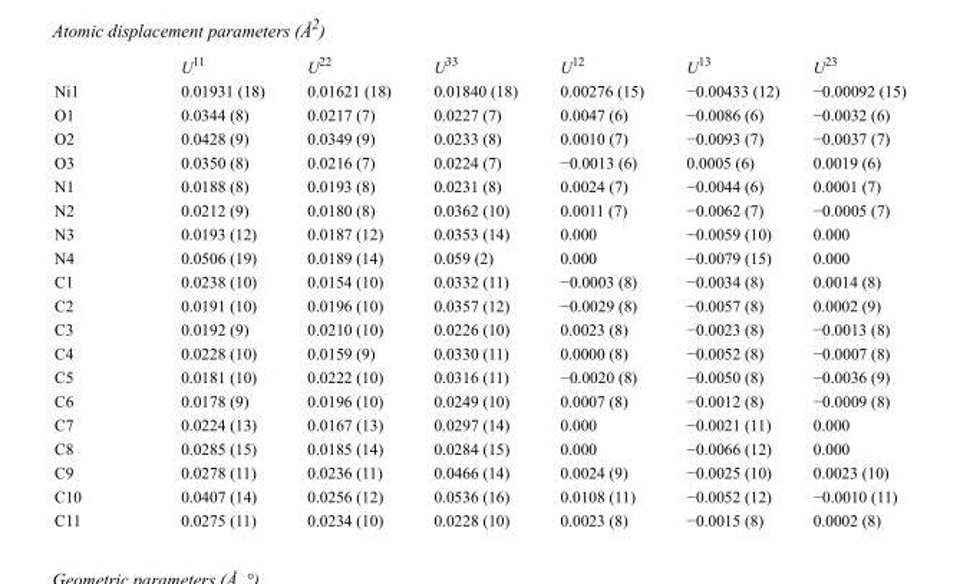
<table><thead><tr><td></td><td>U<sup>11</sup></td><td>U<sup>22</sup></td><td>U<sup>33</sup></td><td>U<sup>12</sup></td><td>U<sup>13</sup></td><td>U<sup>23</sup></td></tr></thead><tbody><tr><td>Ni1</td><td>0.01931 (18)</td><td>0.01621 (18)</td><td>0.01840 (18)</td><td>0.00276 (15)</td><td>−0.00433 (12)</td><td>−0.00092 (15)</td></tr><tr><td>O1</td><td>0.0344 (8)</td><td>0.0217 (7)</td><td>0.0227 (7)</td><td>0.0047 (6)</td><td>−0.0086 (6)</td><td>−0.0032 (6)</td></tr><tr><td>O2</td><td>0.0428 (9)</td><td>0.0349 (9)</td><td>0.0233 (8)</td><td>0.0010 (7)</td><td>−0.0093 (7)</td><td>−0.0037 (7)</td></tr><tr><td>O3</td><td>0.0350 (8)</td><td>0.0216 (7)</td><td>0.0224 (7)</td><td>−0.0013 (6)</td><td>0.0005 (6)</td><td>0.0019 (6)</td></tr><tr><td>N1</td><td>0.0188 (8)</td><td>0.0193 (8)</td><td>0.0231 (8)</td><td>0.0024 (7)</td><td>−0.0044 (6)</td><td>0.0001 (7)</td></tr><tr><td>N2</td><td>0.0212 (9)</td><td>0.0180 (8)</td><td>0.0362 (10)</td><td>0.0011 (7)</td><td>−0.0062 (7)</td><td>−0.0005 (7)</td></tr><tr><td>N3</td><td>0.0193 (12)</td><td>0.0187 (12)</td><td>0.0353 (14)</td><td>0.000</td><td>−0.0059 (10)</td><td>0.000</td></tr><tr><td>N4</td><td>0.0506 (19)</td><td>0.0189 (14)</td><td>0.059 (2)</td><td>0.000</td><td>−0.0079 (15)</td><td>0.000</td></tr><tr><td>C1</td><td>0.0238 (10)</td><td>0.0154 (10)</td><td>0.0332 (11)</td><td>−0.0003 (8)</td><td>−0.0034 (8)</td><td>0.0014 (8)</td></tr><tr><td>C2</td><td>0.0191 (10)</td><td>0.0196 (10)</td><td>0.0357 (12)</td><td>−0.0029 (8)</td><td>−0.0057 (8)</td><td>0.0002 (9)</td></tr><tr><td>C3</td><td>0.0192 (9)</td><td>0.0210 (10)</td><td>0.0226 (10)</td><td>0.0023 (8)</td><td>−0.0023 (8)</td><td>−0.0013 (8)</td></tr><tr><td>C4</td><td>0.0228 (10)</td><td>0.0159 (9)</td><td>0.0330 (11)</td><td>0.0000 (8)</td><td>−0.0052 (8)</td><td>−0.0007 (8)</td></tr><tr><td>C5</td><td>0.0181 (10)</td><td>0.0222 (10)</td><td>0.0316 (11)</td><td>−0.0020 (8)</td><td>−0.0050 (8)</td><td>−0.0036 (9)</td></tr><tr><td>C6</td><td>0.0178 (9)</td><td>0.0196 (10)</td><td>0.0249 (10)</td><td>0.0007 (8)</td><td>−0.0012 (8)</td><td>−0.0009 (8)</td></tr><tr><td>C7</td><td>0.0224 (13)</td><td>0.0167 (13)</td><td>0.0297 (14)</td><td>0.000</td><td>−0.0021 (11)</td><td>0.000</td></tr><tr><td>C8</td><td>0.0285 (15)</td><td>0.0185 (14)</td><td>0.0284 (15)</td><td>0.000</td><td>−0.0066 (12)</td><td>0.000</td></tr><tr><td>C9</td><td>0.0278 (11)</td><td>0.0236 (11)</td><td>0.0466 (14)</td><td>0.0024 (9)</td><td>−0.0025 (10)</td><td>0.0023 (10)</td></tr><tr><td>C10</td><td>0.0407 (14)</td><td>0.0256 (12)</td><td>0.0536 (16)</td><td>0.0108 (11)</td><td>−0.0052 (12)</td><td>−0.0010 (11)</td></tr><tr><td>C11</td><td>0.0275 (11)</td><td>0.0234 (10)</td><td>0.0228 (10)</td><td>0.0023 (8)</td><td>−0.0015 (8)</td><td>0.0002 (8)</td></tr></tbody></table>